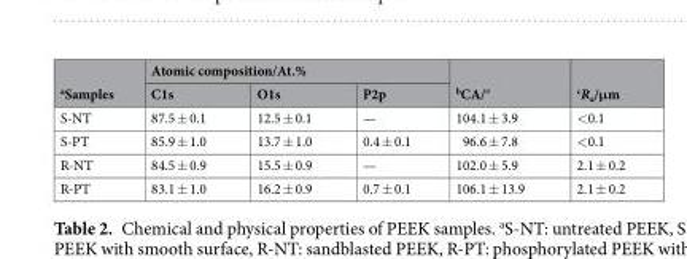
<table><thead><tr><td rowspan="2"><sup>a</sup>Samples</td><td colspan="3">Atomic composition/At.%</td><td rowspan="2"><sup>b</sup>CA/°</td><td rowspan="2"><sup>c</sup>R<sub>a</sub>/μm</td></tr><tr><td>C1s</td><td>O1s</td><td>P2p</td></tr></thead><tbody><tr><td>S-NT</td><td>87.5 ± 0.1</td><td>12.5 ± 0.1</td><td>—</td><td>104.1 ± 3.9</td><td>&lt;0.1</td></tr><tr><td>S-PT</td><td>85.9 ± 1.0</td><td>13.7 ± 1.0</td><td>0.4 ± 0.1</td><td>96.6 ± 7.8</td><td>&lt;0.1</td></tr><tr><td>R-NT</td><td>84.5 ± 0.9</td><td>15.5 ± 0.9</td><td>—</td><td>102.0 ± 5.9</td><td>2.1 ± 0.2</td></tr><tr><td>R-PT</td><td>83.1 ± 1.0</td><td>16.2 ± 0.9</td><td>0.7 ± 0.1</td><td>106.1 ± 13.9</td><td>2.1 ± 0.2</td></tr></tbody></table>